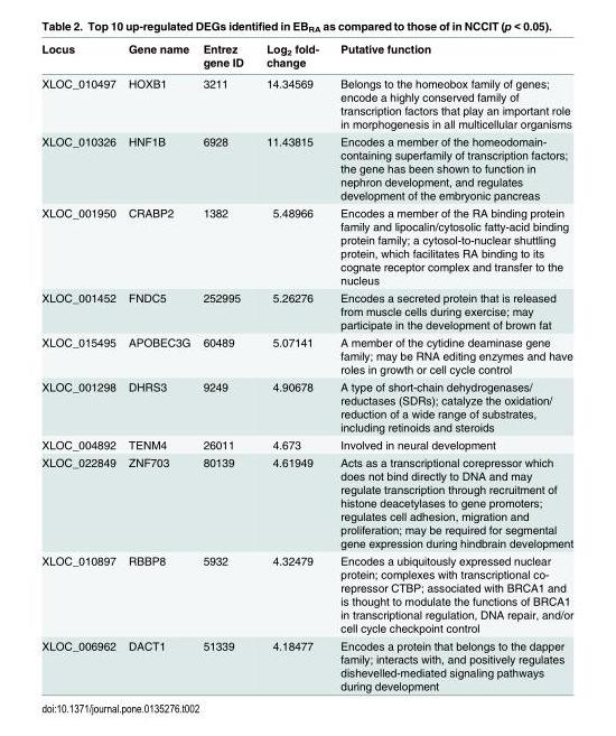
<table><thead><tr><td>Locus</td><td>Gene name</td><td>Entrez gene ID</td><td>Log<sub>2</sub> fold- change</td><td>Putative function</td></tr></thead><tbody><tr><td>XLOC_010497</td><td>HOXB1</td><td>3211</td><td>14.34569</td><td>Belongs to the homeobox family of genes; encode a highly conserved family of transcription factors that play an important role in morphogenesis in all multicellular organisms</td></tr><tr><td>XLOC_010326</td><td>HNF1B</td><td>6928</td><td>11.43815</td><td>Encodes a member of the homeodomain- containing superfamily of transcription factors; the gene has been shown to function in nephron development, and regulates development of the embryonic pancreas</td></tr><tr><td>XLOC_001950</td><td>CRABP2</td><td>1382</td><td>5.48966</td><td>Encodes a member of the RA binding protein family and lipocalin/cytosolic fatty-acid binding protein family; a cytosol-to-nuclear shuttling protein, which facilitates RA binding to its cognate receptor complex and transfer to the nucleus</td></tr><tr><td>XLOC_001452</td><td>FNDC5</td><td>252995</td><td>5.26276</td><td>Encodes a secreted protein that is released from muscle cells during exercise; may participate in the development of brown fat</td></tr><tr><td>XLOC_015495</td><td>APOBEC3G</td><td>60489</td><td>5.07141</td><td>A member of the cytidine deaminase gene family; may be RNA editing enzymes and have roles in growth or cell cycle control</td></tr><tr><td>XLOC_001298</td><td>DHRS3</td><td>9249</td><td>4.90678</td><td>A type of short-chain dehydrogenases/ reductases (SDRs); catalyze the oxidation/ reduction of a wide range of substrates, including retinoids and steroids</td></tr><tr><td>XLOC_004892</td><td>TENM4</td><td>26011</td><td>4.673</td><td>Involved in neural development</td></tr><tr><td>XLOC_022849</td><td>ZNF703</td><td>80139</td><td>4.61949</td><td>Acts as a transcriptional corepressor which does not bind directly to DNA and may regulate transcription through recruitment of histone deacetylases to gene promoters; regulates cell adhesion, migration and proliferation; may be required for segmental gene expression during hindbrain development</td></tr><tr><td>XLOC_010897</td><td>RBBP8</td><td>5932</td><td>4.32479</td><td>Encodes a ubiquitously expressed nuclear protein; complexes with transcriptional co- repressor CTBP; associated with BRCA1 and is thought to modulate the functions of BRCA1 in transcriptional regulation, DNA repair, and/or cell cycle checkpoint control</td></tr><tr><td>XLOC_006962</td><td>DACT1</td><td>51339</td><td>4.18477</td><td>Encodes a protein that belongs to the dapper family; interacts with, and positively regulates dishevelled-mediated signaling pathways during development</td></tr></tbody></table>